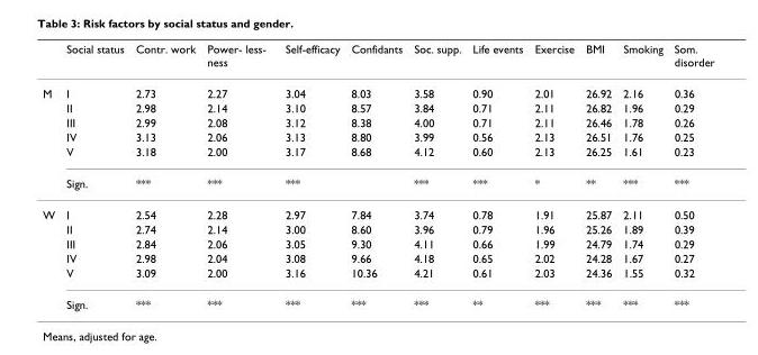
<table><thead><tr><td></td><td>Social status</td><td>Contr. work</td><td>Power- less- ness</td><td>Self-efficacy</td><td>Confidants</td><td>Soc. supp.</td><td>Life events</td><td>Exercise</td><td>BMI</td><td>Smoking</td><td>Som. disorder</td></tr></thead><tbody><tr><td rowspan="6">M</td><td>I</td><td>2.73</td><td>2.27</td><td>3.04</td><td>8.03</td><td>3.58</td><td>0.90</td><td>2.01</td><td>26.92</td><td>2.16</td><td>0.36</td></tr><tr><td>II</td><td>2.98</td><td>2.14</td><td>3.10</td><td>8.57</td><td>3.84</td><td>0.71</td><td>2.11</td><td>26.82</td><td>1.96</td><td>0.29</td></tr><tr><td>III</td><td>2.99</td><td>2.08</td><td>3.12</td><td>8.38</td><td>4.00</td><td>0.71</td><td>2.11</td><td>26.46</td><td>1.78</td><td>0.26</td></tr><tr><td>IV</td><td>3.13</td><td>2.06</td><td>3.13</td><td>8.80</td><td>3.99</td><td>0.56</td><td>2.13</td><td>26.51</td><td>1.76</td><td>0.25</td></tr><tr><td>V</td><td>3.18</td><td>2.00</td><td>3.17</td><td>8.68</td><td>4.12</td><td>0.60</td><td>2.13</td><td>26.25</td><td>1.61</td><td>0.23</td></tr><tr><td>Sign.</td><td>***</td><td>***</td><td>***</td><td></td><td>***</td><td>***</td><td>*</td><td>**</td><td>***</td><td>***</td></tr><tr><td rowspan="6">W</td><td>I</td><td>2.54</td><td>2.28</td><td>2.97</td><td>7.84</td><td>3.74</td><td>0.78</td><td>1.91</td><td>25.87</td><td>2.11</td><td>0.50</td></tr><tr><td>II</td><td>2.74</td><td>2.14</td><td>3.00</td><td>8.60</td><td>3.96</td><td>0.79</td><td>1.96</td><td>25.26</td><td>1.89</td><td>0.39</td></tr><tr><td>III</td><td>2.84</td><td>2.06</td><td>3.05</td><td>9.30</td><td>4.11</td><td>0.66</td><td>1.99</td><td>24.79</td><td>1.74</td><td>0.29</td></tr><tr><td>IV</td><td>2.98</td><td>2.04</td><td>3.08</td><td>9.66</td><td>4.18</td><td>0.65</td><td>2.02</td><td>24.28</td><td>1.67</td><td>0.27</td></tr><tr><td>V</td><td>3.09</td><td>2.00</td><td>3.16</td><td>10.36</td><td>4.21</td><td>0.61</td><td>2.03</td><td>24.36</td><td>1.55</td><td>0.32</td></tr><tr><td>Sign.</td><td>***</td><td>***</td><td>***</td><td>***</td><td>***</td><td>**</td><td>***</td><td>***</td><td>***</td><td>***</td></tr></tbody></table>